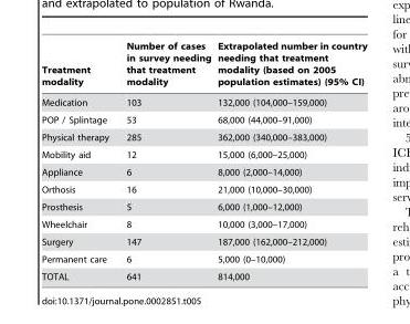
<table><thead><tr><td>Treatment modality</td><td>Number of cases in survey needing that treatment modality</td><td>Extrapolated number in country needing that treatment modality (based on 2005 population estimates) (95% CI)</td></tr></thead><tbody><tr><td>Medication</td><td>103</td><td>132,000 (104,000–159,000)</td></tr><tr><td>POP / Splintage</td><td>53</td><td>68,000 (44,000–91,000)</td></tr><tr><td>Physical therapy</td><td>285</td><td>362,000 (340,000–383,000)</td></tr><tr><td>Mobility aid</td><td>12</td><td>15,000 (6,000–25,000)</td></tr><tr><td>Appliance</td><td>6</td><td>8,000 (2,000–14,000)</td></tr><tr><td>Orthosis</td><td>16</td><td>21,000 (10,000–30,000)</td></tr><tr><td>Prosthesis</td><td>5</td><td>6,000 (1,000–12,000)</td></tr><tr><td>Wheelchair</td><td>8</td><td>10,000 (3,000–17,000)</td></tr><tr><td>Surgery</td><td>147</td><td>187,000 (162,000–212,000)</td></tr><tr><td>Permanent care</td><td>6</td><td>5,000 (0–10,000)</td></tr><tr><td>TOTAL</td><td>641</td><td>814,000</td></tr></tbody></table>